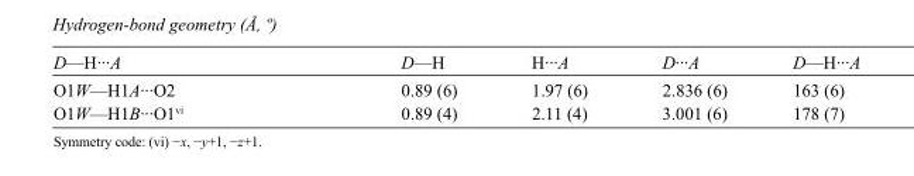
<table><tbody><tr><td>D—H···A</td><td>D—H</td><td>H···A</td><td>D···A</td><td>D—H···A</td></tr><tr><td>O1W—H1A···O2</td><td>0.89 (6)</td><td>1.97 (6)</td><td>2.836 (6)</td><td>163 (6)</td></tr><tr><td>O1W—H1B···O1<sup>vi</sup></td><td>0.89 (4)</td><td>2.11 (4)</td><td>3.001 (6)</td><td>178 (7)</td></tr></tbody></table>